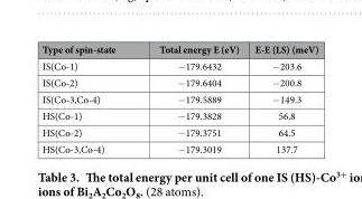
<table><thead><tr><td>Type of spin-state</td><td>Total energy E (eV)</td><td>E-E (LS) (meV)</td></tr></thead><tbody><tr><td>IS(Co-1)</td><td>− 179.6432</td><td>− 203.6</td></tr><tr><td>IS(Co-2)</td><td>− 179.6404</td><td>− 200.8</td></tr><tr><td>IS(Co-3,Co-4)</td><td>− 179.5889</td><td>− 149.3</td></tr><tr><td>HS(Co-1)</td><td>− 179.3828</td><td>56.8</td></tr><tr><td>HS(Co-2)</td><td>− 179.3751</td><td>64.5</td></tr><tr><td>HS(Co-3,Co-4)</td><td>− 179.3019</td><td>137.7</td></tr></tbody></table>